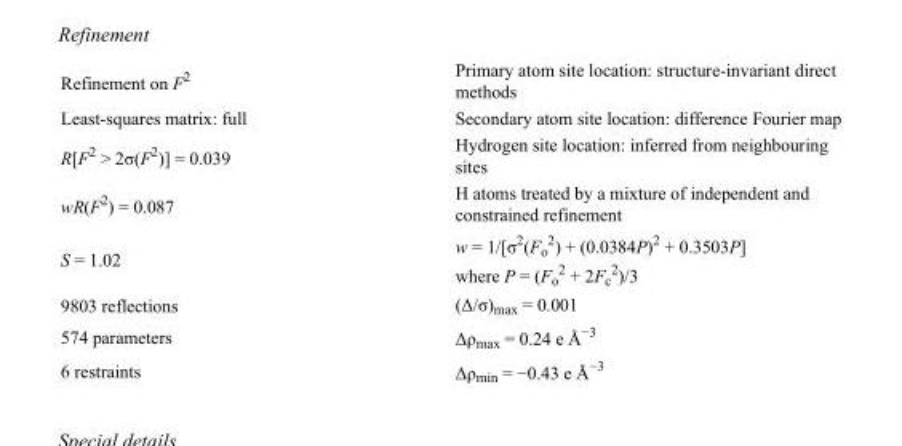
<table><tbody><tr><td>Refinement on F<sup>2</sup></td><td>Primary atom site location: structure-invariant direct methods</td></tr><tr><td>Least-squares matrix: full</td><td>Secondary atom site location: difference Fourier map</td></tr><tr><td>R[F<sup>2</sup> &gt; 2σ(F<sup>2</sup>)] = 0.039</td><td>Hydrogen site location: inferred from neighbouring sites</td></tr><tr><td>wR(F<sup>2</sup>) = 0.087</td><td>H atoms treated by a mixture of independent and constrained refinement</td></tr><tr><td>S = 1.02</td><td>w = 1/[σ<sup>2</sup>(F<sub>o</sub> <sup>2</sup>) + (0.0384P)<sup>2</sup> + 0.3503P] where P = (F<sub>o</sub> <sup>2</sup> + 2F<sub>c</sub> <sup>2</sup>)/3</td></tr><tr><td>9803 reflections</td><td>(Δ/σ)<sub>max</sub> = 0.001</td></tr><tr><td>574 parameters</td><td>Δρ<sub>max</sub> = 0.24 e Å<sup>−3</sup></td></tr><tr><td>6 restraints</td><td>Δρ<sub>min</sub> = −0.43 e Å<sup>−3</sup></td></tr></tbody></table>